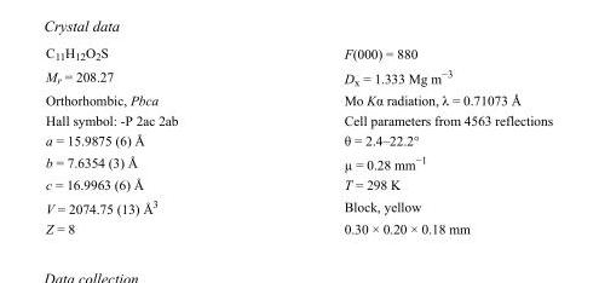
<table><tbody><tr><td>C<sub>11</sub>H<sub>12</sub>O<sub>2</sub>S</td><td>F(000) = 880</td></tr><tr><td>M<sub>r</sub> = 208.27</td><td>D<sub>x</sub> = 1.333 Mg m<sup>−3</sup></td></tr><tr><td>Orthorhombic, Pbca</td><td>Mo Kα radiation, λ = 0.71073 Å</td></tr><tr><td>Hall symbol: -P 2ac 2ab</td><td>Cell parameters from 4563 reflections</td></tr><tr><td>a = 15.9875 (6) Å</td><td>θ = 2.4–22.2°</td></tr><tr><td>b = 7.6354 (3) Å</td><td>µ = 0.28 mm<sup>−1</sup></td></tr><tr><td>c = 16.9963 (6) Å</td><td>T = 298 K</td></tr><tr><td>V = 2074.75 (13) Å<sup>3</sup></td><td>Block, yellow</td></tr><tr><td>Z = 8</td><td>0.30 × 0.20 × 0.18 mm</td></tr></tbody></table>